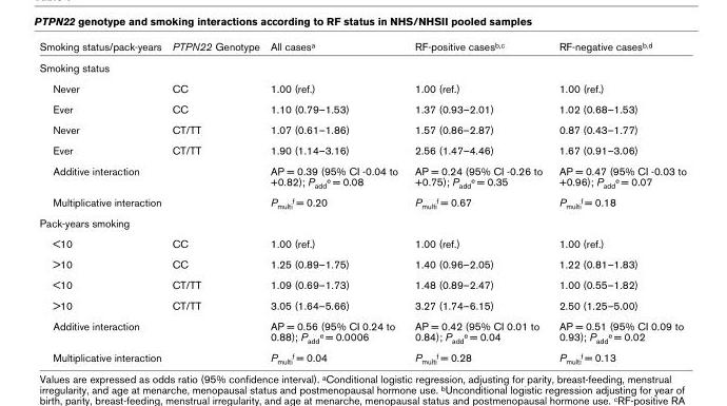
<table><thead><tr><td>Smoking status/pack-years</td><td>PTPN22 Genotype</td><td>All cases<sup>a</sup></td><td>RF-positive cases<sup>b,c</sup></td><td>RF-negative cases<sup>b,d</sup></td></tr></thead><tbody><tr><td colspan="5">Smoking status</td></tr><tr><td>Never</td><td>CC</td><td>1.00 (ref.)</td><td>1.00 (ref.)</td><td>1.00 (ref.)</td></tr><tr><td>Ever</td><td>CC</td><td>1.10 (0.79–1.53)</td><td>1.37 (0.93–2.01)</td><td>1.02 (0.68–1.53)</td></tr><tr><td>Never</td><td>CT/TT</td><td>1.07 (0.61–1.86)</td><td>1.57 (0.86–2.87)</td><td>0.87 (0.43–1.77)</td></tr><tr><td>Ever</td><td>CT/TT</td><td>1.90 (1.14–3.16)</td><td>2.56 (1.47–4.46)</td><td>1.67 (0.91–3.06)</td></tr><tr><td colspan="2">Additive interaction</td><td>AP = 0.39 (95% CI -0.04 to +0.82); P<sub>add</sub><sup>e</sup> = 0.08</td><td>AP = 0.24 (95% CI -0.26 to +0.75); P<sub>add</sub><sup>e</sup> = 0.35</td><td>AP = 0.47 (95% CI -0.03 to +0.96); P<sub>add</sub><sup>e</sup> = 0.07</td></tr><tr><td colspan="2">Multiplicative interaction</td><td>P<sub>multi</sub><sup>f</sup> = 0.20</td><td>P<sub>multi</sub><sup>f</sup> = 0.67</td><td>P<sub>multi</sub><sup>f</sup> = 0.18</td></tr><tr><td colspan="5">Pack-years smoking</td></tr><tr><td>&lt;10</td><td>CC</td><td>1.00 (ref.)</td><td>1.00 (ref.)</td><td>1.00 (ref.)</td></tr><tr><td>&gt;10</td><td>CC</td><td>1.25 (0.89–1.75)</td><td>1.40 (0.96–2.05)</td><td>1.22 (0.81–1.83)</td></tr><tr><td>&lt;10</td><td>CT/TT</td><td>1.09 (0.69–1.73)</td><td>1.48 (0.89–2.47)</td><td>1.00 (0.55–1.82)</td></tr><tr><td>&gt;10</td><td>CT/TT</td><td>3.05 (1.64–5.66)</td><td>3.27 (1.74–6.15)</td><td>2.50 (1.25–5.00)</td></tr><tr><td colspan="2">Additive interaction</td><td>AP = 0.56 (95% CI 0.24 to 0.88); P<sub>add</sub><sup>e</sup> = 0.0006</td><td>AP = 0.42 (95% CI 0.01 to 0.84); P<sub>add</sub><sup>e</sup> = 0.04</td><td>AP = 0.51 (95% CI 0.09 to 0.93); P<sub>add</sub><sup>e</sup> = 0.02</td></tr><tr><td colspan="2">Multiplicative interaction</td><td>P<sub>multi</sub><sup>f</sup> = 0.04</td><td>P<sub>multi</sub><sup>f</sup> = 0.28</td><td>P<sub>multi</sub><sup>f</sup> = 0.13</td></tr></tbody></table>